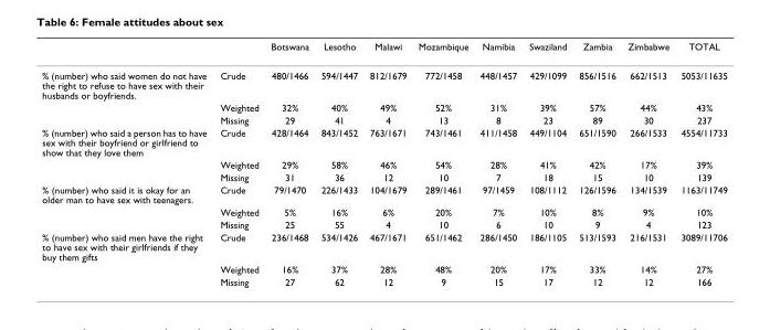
<table><thead><tr><td></td><td></td><td>Botswana</td><td>Lesotho</td><td>Malawi</td><td>Mozambique</td><td>Namibia</td><td>Swaziland</td><td>Zambia</td><td>Zimbabwe</td><td>TOTAL</td></tr></thead><tbody><tr><td rowspan="3">% (number) who said women do not have the right to refuse to have sex with their husbands or boyfriends.</td><td>Crude</td><td>480/1466</td><td>594/1447</td><td>812/1679</td><td>772/1458</td><td>448/1457</td><td>429/1099</td><td>856/1516</td><td>662/1513</td><td>5053/11635</td></tr><tr><td>Weighted</td><td>32%</td><td>40%</td><td>49%</td><td>52%</td><td>31%</td><td>39%</td><td>57%</td><td>44%</td><td>43%</td></tr><tr><td>Missing</td><td>29</td><td>41</td><td>4</td><td>13</td><td>8</td><td>23</td><td>89</td><td>30</td><td>237</td></tr><tr><td rowspan="3">% (number) who said a person has to have sex with their boyfriend or girlfriend to show that they love them</td><td>Crude</td><td>428/1464</td><td>843/1452</td><td>763/1671</td><td>743/1461</td><td>411/1458</td><td>449/1104</td><td>651/1590</td><td>266/1533</td><td>4554/11733</td></tr><tr><td>Weighted</td><td>29%</td><td>58%</td><td>46%</td><td>54%</td><td>28%</td><td>41%</td><td>42%</td><td>17%</td><td>39%</td></tr><tr><td>Missing</td><td>31</td><td>36</td><td>12</td><td>10</td><td>7</td><td>18</td><td>15</td><td>10</td><td>139</td></tr><tr><td rowspan="3">% (number) who said it is okay for an older man to have sex with teenagers.</td><td>Crude</td><td>79/1470</td><td>226/1433</td><td>104/1679</td><td>289/1461</td><td>97/1459</td><td>108/1112</td><td>126/1596</td><td>134/1539</td><td>1163/11749</td></tr><tr><td>Weighted</td><td>5%</td><td>16%</td><td>6%</td><td>20%</td><td>7%</td><td>10%</td><td>8%</td><td>9%</td><td>10%</td></tr><tr><td>Missing</td><td>25</td><td>55</td><td>4</td><td>10</td><td>6</td><td>10</td><td>9</td><td>4</td><td>123</td></tr><tr><td rowspan="3">% (number) who said men have the right to have sex with their girlfriends if they buy them gifts</td><td>Crude</td><td>236/1468</td><td>534/1426</td><td>467/1671</td><td>651/1462</td><td>286/1450</td><td>186/1105</td><td>513/1593</td><td>216/1531</td><td>3089/11706</td></tr><tr><td>Weighted</td><td>16%</td><td>37%</td><td>28%</td><td>48%</td><td>20%</td><td>17%</td><td>33%</td><td>14%</td><td>27%</td></tr><tr><td>Missing</td><td>27</td><td>62</td><td>12</td><td>9</td><td>15</td><td>17</td><td>12</td><td>12</td><td>166</td></tr></tbody></table>